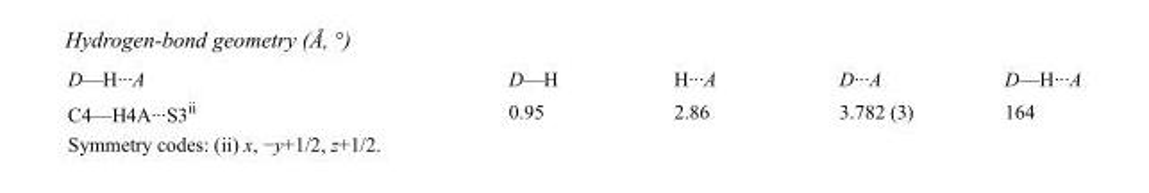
<table><tbody><tr><td>D—H···A</td><td>D—H</td><td>H···A</td><td>D···A</td><td>D—H···A</td></tr><tr><td>C4—H4A···S3<sup>ii</sup></td><td>0.95</td><td>2.86</td><td>3.782 (3)</td><td>164</td></tr></tbody></table>